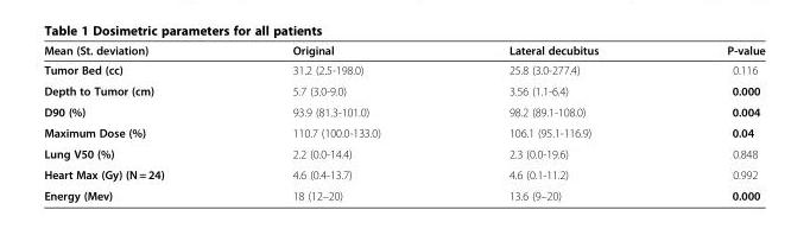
<table><thead><tr><td>Mean (St. deviation)</td><td>Original</td><td>Lateral decubitus</td><td>P-value</td></tr></thead><tbody><tr><td>Tumor Bed (cc)</td><td>31.2 (2.5-198.0)</td><td>25.8 (3.0-277.4)</td><td>0.116</td></tr><tr><td>Depth to Tumor (cm)</td><td>5.7 (3.0-9.0)</td><td>3.56 (1.1-6.4)</td><td>0.000</td></tr><tr><td>D90 (%)</td><td>93.9 (81.3-101.0)</td><td>98.2 (89.1-108.0)</td><td>0.004</td></tr><tr><td>Maximum Dose (%)</td><td>110.7 (100.0-133.0)</td><td>106.1 (95.1-116.9)</td><td>0.04</td></tr><tr><td>Lung V50 (%)</td><td>2.2 (0.0-14.4)</td><td>2.3 (0.0-19.6)</td><td>0.848</td></tr><tr><td>Heart Max (Gy) (N = 24)</td><td>4.6 (0.4-13.7)</td><td>4.6 (0.1-11.2)</td><td>0.992</td></tr><tr><td>Energy (Mev)</td><td>18 (12–20)</td><td>13.6 (9–20)</td><td>0.000</td></tr></tbody></table>